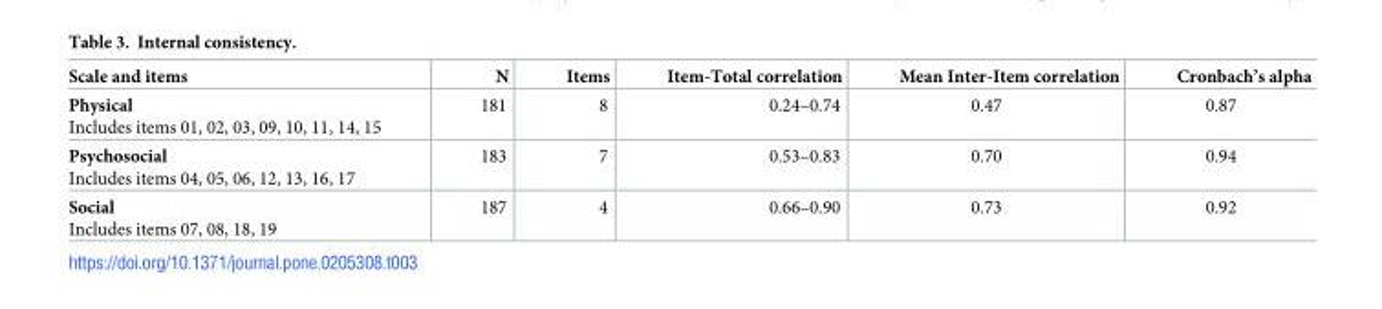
<table><thead><tr><td>Scale and items</td><td>N</td><td>Items</td><td>Item-Total correlation</td><td>Mean Inter-Item correlation</td><td>Cronbach’s alpha</td></tr></thead><tbody><tr><td>Physical Includes items 01, 02, 03, 09, 10, 11, 14, 15</td><td>181</td><td>8</td><td>0.24–0.74</td><td>0.47</td><td>0.87</td></tr><tr><td>Psychosocial Includes items 04, 05, 06, 12, 13, 16, 17</td><td>183</td><td>7</td><td>0.53–0.83</td><td>0.70</td><td>0.94</td></tr><tr><td>Social Includes items 07, 08, 18, 19</td><td>187</td><td>4</td><td>0.66–0.90</td><td>0.73</td><td>0.92</td></tr></tbody></table>